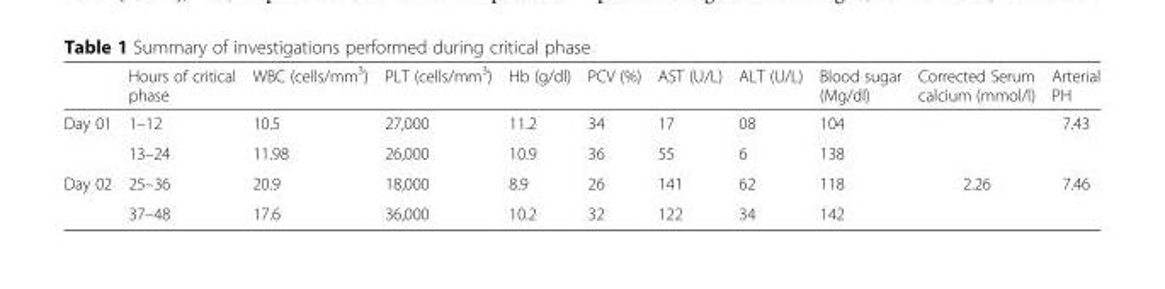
<table><thead><tr><td></td><td>Hours of critical phase</td><td>WBC (cells/mm<sup>3</sup>)</td><td>PLT (cells/mm<sup>3</sup>)</td><td>Hb (g/dl)</td><td>PCV (%)</td><td>AST (U/L)</td><td>ALT (U/L)</td><td>Blood sugar (Mg/dl)</td><td>Corrected Serum calcium (mmol/l)</td><td>Arterial PH</td></tr></thead><tbody><tr><td rowspan="2">Day 01</td><td>1–12</td><td>10.5</td><td>27,000</td><td>11.2</td><td>34</td><td>17</td><td>08</td><td>104</td><td></td><td>7.43</td></tr><tr><td>13–24</td><td>11.98</td><td>26,000</td><td>10.9</td><td>36</td><td>55</td><td>6</td><td>138</td><td></td><td></td></tr><tr><td rowspan="2">Day 02</td><td>25–36</td><td>20.9</td><td>18,000</td><td>8.9</td><td>26</td><td>141</td><td>62</td><td>118</td><td>2.26</td><td>7.46</td></tr><tr><td>37–48</td><td>17.6</td><td>36,000</td><td>10.2</td><td>32</td><td>122</td><td>34</td><td>142</td><td></td><td></td></tr></tbody></table>